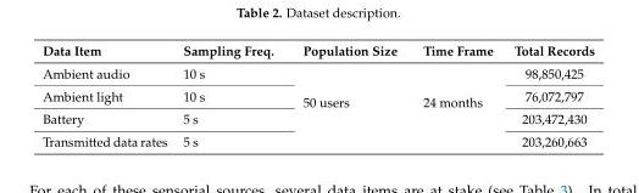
<table><thead><tr><td>Data Item</td><td>Sampling Freq.</td><td>Population Size</td><td>Time Frame</td><td>Total Records</td></tr></thead><tbody><tr><td>Ambient audio</td><td>10 s</td><td rowspan="4">50 users</td><td rowspan="4">24 months</td><td>98,850,425</td></tr><tr><td>Ambient light</td><td>10 s</td><td>76,072,797</td></tr><tr><td>Battery</td><td>5 s</td><td>203,472,430</td></tr><tr><td>Transmitted data rates</td><td>5 s</td><td>203,260,663</td></tr></tbody></table>